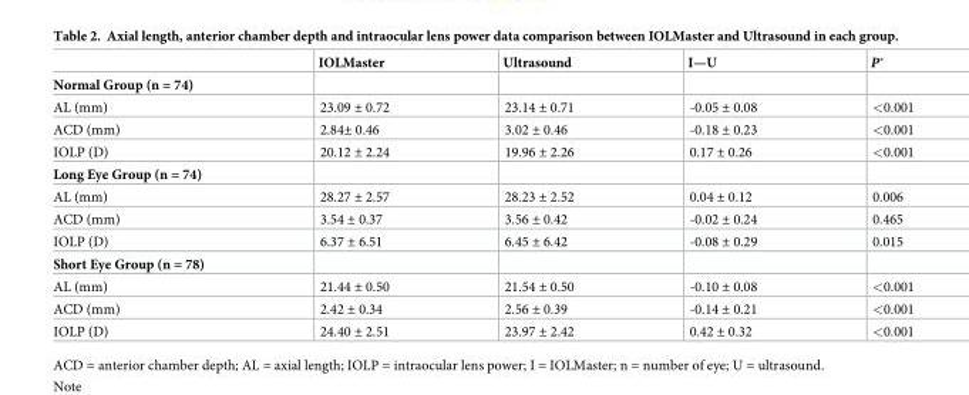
<table><thead><tr><td></td><td>IOLMaster</td><td>Ultrasound</td><td>I—U</td><td>P*</td></tr></thead><tbody><tr><td colspan="5">Normal Group (n = 74)</td></tr><tr><td>AL (mm)</td><td>23.09 ± 0.72</td><td>23.14 ± 0.71</td><td>-0.05 ± 0.08</td><td>&lt;0.001</td></tr><tr><td>ACD (mm)</td><td>2.84± 0.46</td><td>3.02 ± 0.46</td><td>-0.18 ± 0.23</td><td>&lt;0.001</td></tr><tr><td>IOLP (D)</td><td>20.12 ± 2.24</td><td>19.96 ± 2.26</td><td>0.17 ± 0.26</td><td>&lt;0.001</td></tr><tr><td colspan="5">Long Eye Group (n = 74)</td></tr><tr><td>AL (mm)</td><td>28.27 ± 2.57</td><td>28.23 ± 2.52</td><td>0.04 ± 0.12</td><td>0.006</td></tr><tr><td>ACD (mm)</td><td>3.54 ± 0.37</td><td>3.56 ± 0.42</td><td>-0.02 ± 0.24</td><td>0.465</td></tr><tr><td>IOLP (D)</td><td>6.37 ± 6.51</td><td>6.45 ± 6.42</td><td>-0.08 ± 0.29</td><td>0.015</td></tr><tr><td colspan="5">Short Eye Group (n = 78)</td></tr><tr><td>AL (mm)</td><td>21.44 ± 0.50</td><td>21.54 ± 0.50</td><td>-0.10 ± 0.08</td><td>&lt;0.001</td></tr><tr><td>ACD (mm)</td><td>2.42 ± 0.34</td><td>2.56 ± 0.39</td><td>-0.14 ± 0.21</td><td>&lt;0.001</td></tr><tr><td>IOLP (D)</td><td>24.40 ± 2.51</td><td>23.97 ± 2.42</td><td>0.42 ± 0.32</td><td>&lt;0.001</td></tr></tbody></table>